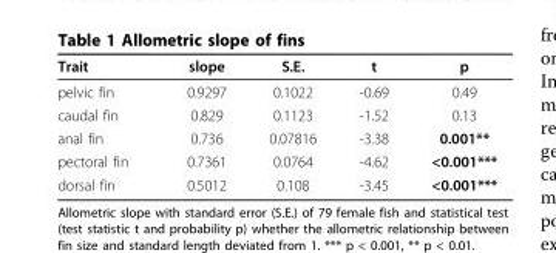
<table><thead><tr><td>Trait</td><td>slope</td><td>S.E.</td><td>t</td><td>p</td></tr></thead><tbody><tr><td>pelvic fin</td><td>0.9297</td><td>0.1022</td><td>-0.69</td><td>0.49</td></tr><tr><td>caudal fin</td><td>0.829</td><td>0.1123</td><td>-1.52</td><td>0.13</td></tr><tr><td>anal fin</td><td>0.736</td><td>0.07816</td><td>-3.38</td><td>0.001**</td></tr><tr><td>pectoral fin</td><td>0.7361</td><td>0.0764</td><td>-4.62</td><td>&lt;0.001***</td></tr><tr><td>dorsal fin</td><td>0.5012</td><td>0.108</td><td>-3.45</td><td>&lt;0.001***</td></tr></tbody></table>